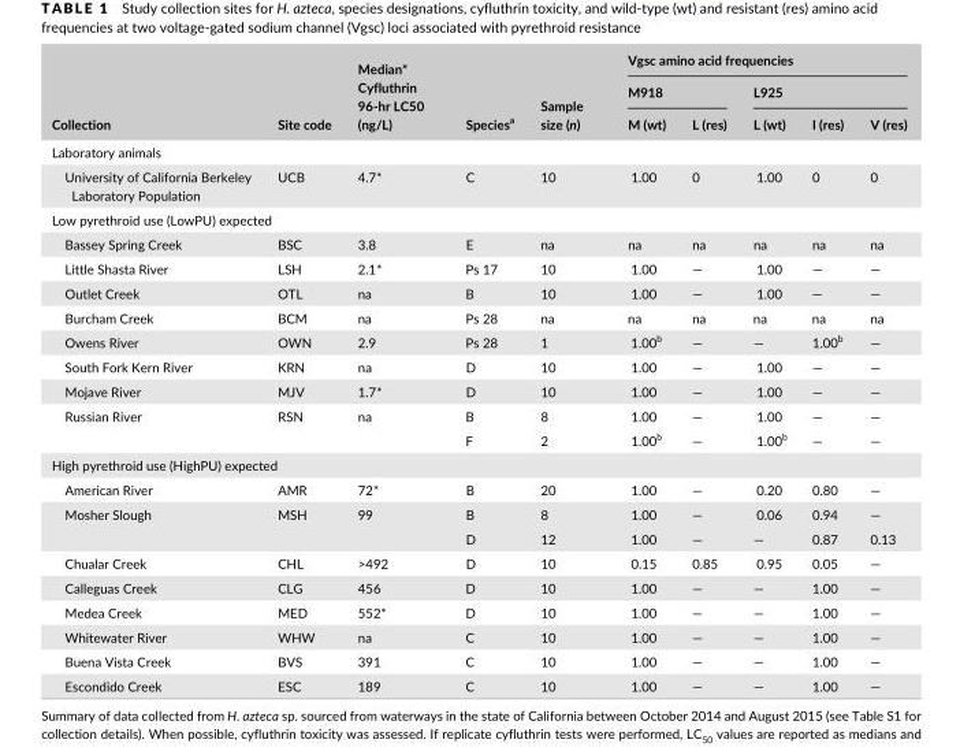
<table><thead><tr><td rowspan="3">Collection</td><td rowspan="3">Site code</td><td rowspan="3">Median* Cyfluthrin 96- hr LC50 (ng/L)</td><td rowspan="3">Species<sup>a</sup></td><td rowspan="3">Sample size (n)</td><td colspan="5">Vgsc amino acid frequencies</td></tr><tr><td colspan="2">M918</td><td colspan="3">L925</td></tr><tr><td>M (wt)</td><td>L (res)</td><td>L (wt)</td><td>I (res)</td><td>V (res)</td></tr></thead><tbody><tr><td colspan="10">Laboratory animals</td></tr><tr><td>University of California Berkeley Laboratory Population</td><td>UCB</td><td>4.7*</td><td>C</td><td>10</td><td>1.00</td><td>0</td><td>1.00</td><td>0</td><td>0</td></tr><tr><td colspan="10">Low pyrethroid use (LowPU) expected</td></tr><tr><td>Bassey Spring Creek</td><td>BSC</td><td>3.8</td><td>E</td><td>na</td><td>na</td><td>na</td><td>na</td><td>na</td><td>na</td></tr><tr><td>Little Shasta River</td><td>LSH</td><td>2.1*</td><td>Ps 17</td><td>10</td><td>1.00</td><td>—</td><td>1.00</td><td>—</td><td>—</td></tr><tr><td>Outlet Creek</td><td>OTL</td><td>na</td><td>B</td><td>10</td><td>1.00</td><td>—</td><td>1.00</td><td>—</td><td>—</td></tr><tr><td>Burcham Creek</td><td>BCM</td><td>na</td><td>Ps 28</td><td>na</td><td>na</td><td>na</td><td>na</td><td>na</td><td>na</td></tr><tr><td>Owens River</td><td>OWN</td><td>2.9</td><td>Ps 28</td><td>1</td><td>1.00<sup>b</sup></td><td>—</td><td>—</td><td>1.00<sup>b</sup></td><td>—</td></tr><tr><td>South Fork Kern River</td><td>KRN</td><td>na</td><td>D</td><td>10</td><td>1.00</td><td>—</td><td>1.00</td><td>—</td><td>—</td></tr><tr><td>Mojave River</td><td>MJV</td><td>1.7*</td><td>D</td><td>10</td><td>1.00</td><td>—</td><td>1.00</td><td>—</td><td>—</td></tr><tr><td rowspan="2">Russian River</td><td rowspan="2">RSN</td><td rowspan="2">na</td><td>B</td><td>8</td><td>1.00</td><td>—</td><td>1.00</td><td>—</td><td>—</td></tr><tr><td>F</td><td>2</td><td>1.00<sup>b</sup></td><td>—</td><td>1.00<sup>b</sup></td><td>—</td><td>—</td></tr><tr><td colspan="10">High pyrethroid use (HighPU) expected</td></tr><tr><td>American River</td><td>AMR</td><td>72*</td><td>B</td><td>20</td><td>1.00</td><td>—</td><td>0.20</td><td>0.80</td><td>—</td></tr><tr><td rowspan="2">Mosher Slough</td><td rowspan="2">MSH</td><td rowspan="2">99</td><td>B</td><td>8</td><td>1.00</td><td>—</td><td>0.06</td><td>0.94</td><td>—</td></tr><tr><td>D</td><td>12</td><td>1.00</td><td>—</td><td>—</td><td>0.87</td><td>0.13</td></tr><tr><td>Chualar Creek</td><td>CHL</td><td>&gt;492</td><td>D</td><td>10</td><td>0.15</td><td>0.85</td><td>0.95</td><td>0.05</td><td>—</td></tr><tr><td>Calleguas Creek</td><td>CLG</td><td>456</td><td>D</td><td>10</td><td>1.00</td><td>—</td><td>—</td><td>1.00</td><td>—</td></tr><tr><td>Medea Creek</td><td>MED</td><td>552*</td><td>D</td><td>10</td><td>1.00</td><td>—</td><td>—</td><td>1.00</td><td>—</td></tr><tr><td>Whitewater River</td><td>WHW</td><td>na</td><td>C</td><td>10</td><td>1.00</td><td>—</td><td>—</td><td>1.00</td><td>—</td></tr><tr><td>Buena Vista Creek</td><td>BVS</td><td>391</td><td>C</td><td>10</td><td>1.00</td><td>—</td><td>—</td><td>1.00</td><td>—</td></tr><tr><td>Escondido Creek</td><td>ESC</td><td>189</td><td>C</td><td>10</td><td>1.00</td><td>—</td><td>—</td><td>1.00</td><td>—</td></tr></tbody></table>